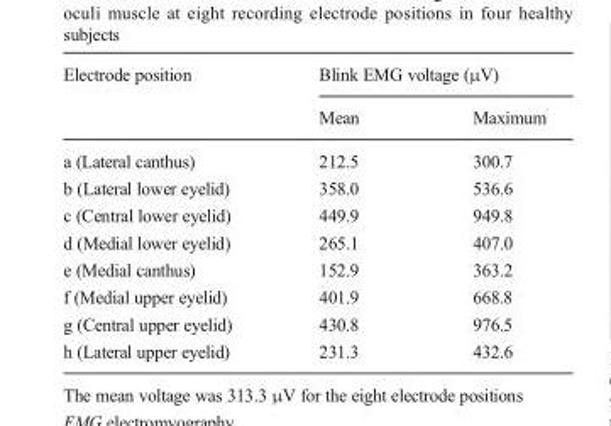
<table><thead><tr><td rowspan="2">Electrode position</td><td colspan="2">Blink EMG voltage (μV)</td></tr><tr><td>Mean</td><td>Maximum</td></tr></thead><tbody><tr><td>a (Lateral canthus)</td><td>212.5</td><td>300.7</td></tr><tr><td>b (Lateral lower eyelid)</td><td>358.0</td><td>536.6</td></tr><tr><td>c (Central lower eyelid)</td><td>449.9</td><td>949.8</td></tr><tr><td>d (Medial lower eyelid)</td><td>265.1</td><td>407.0</td></tr><tr><td>e (Medial canthus)</td><td>152.9</td><td>363.2</td></tr><tr><td>f (Medial upper eyelid)</td><td>401.9</td><td>668.8</td></tr><tr><td>g (Central upper eyelid)</td><td>430.8</td><td>976.5</td></tr><tr><td>h (Lateral upper eyelid)</td><td>231.3</td><td>432.6</td></tr></tbody></table>